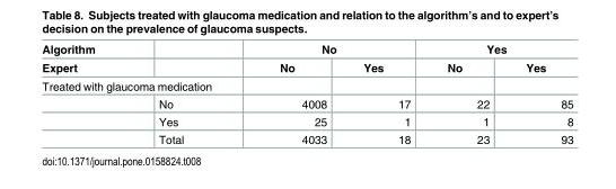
<table><thead><tr><td rowspan="2">Algorithm Expert</td><td rowspan="2"></td><td colspan="2">No</td><td colspan="2">Yes</td></tr><tr><td>No</td><td>Yes</td><td>No</td><td>Yes</td></tr></thead><tbody><tr><td colspan="6">Treated with glaucoma medication</td></tr><tr><td></td><td>No</td><td>4008</td><td>17</td><td>22</td><td>85</td></tr><tr><td></td><td>Yes</td><td>25</td><td>1</td><td>1</td><td>8</td></tr><tr><td></td><td>Total</td><td>4033</td><td>18</td><td>23</td><td>93</td></tr></tbody></table>